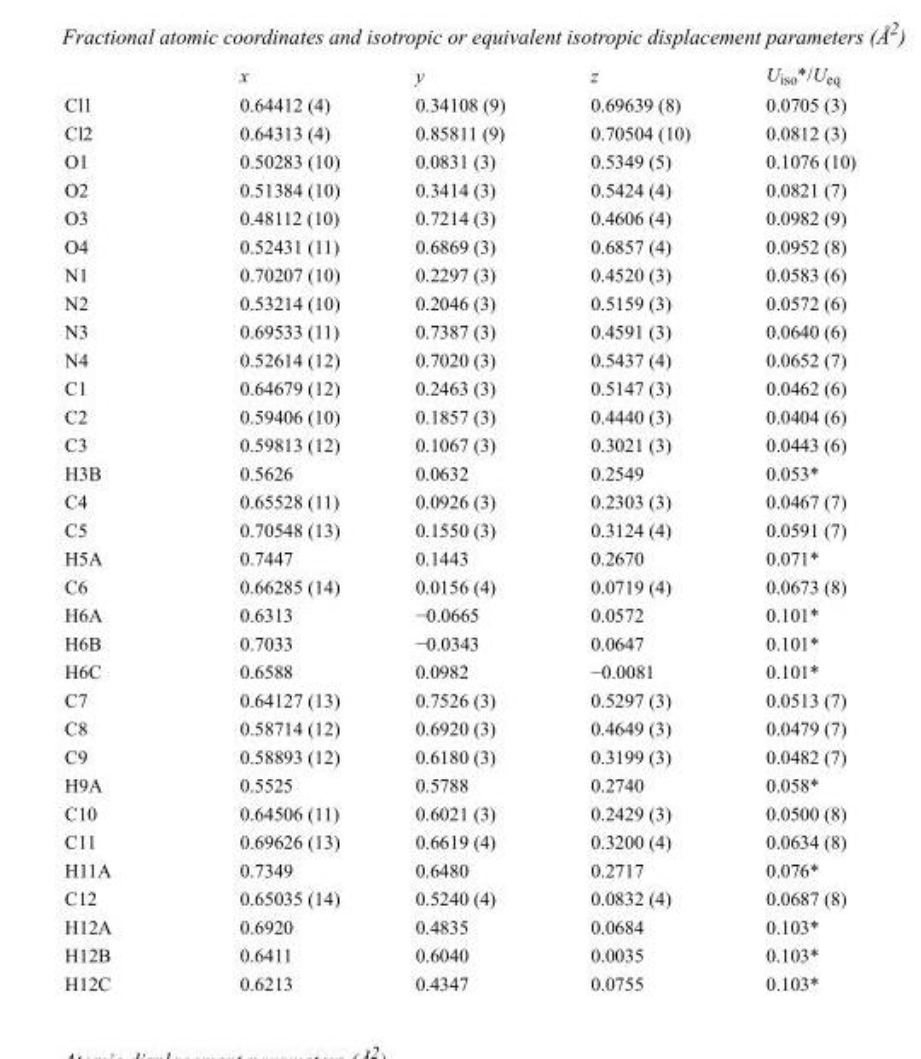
<table><thead><tr><td></td><td>x</td><td>y</td><td>z</td><td>U<sub>iso</sub>*/U<sub>eq</sub></td></tr></thead><tbody><tr><td>Cl1</td><td>0.64412 (4)</td><td>0.34108 (9)</td><td>0.69639 (8)</td><td>0.0705 (3)</td></tr><tr><td>Cl2</td><td>0.64313 (4)</td><td>0.85811 (9)</td><td>0.70504 (10)</td><td>0.0812 (3)</td></tr><tr><td>O1</td><td>0.50283 (10)</td><td>0.0831 (3)</td><td>0.5349 (5)</td><td>0.1076 (10)</td></tr><tr><td>O2</td><td>0.51384 (10)</td><td>0.3414 (3)</td><td>0.5424 (4)</td><td>0.0821 (7)</td></tr><tr><td>O3</td><td>0.48112 (10)</td><td>0.7214 (3)</td><td>0.4606 (4)</td><td>0.0982 (9)</td></tr><tr><td>O4</td><td>0.52431 (11)</td><td>0.6869 (3)</td><td>0.6857 (4)</td><td>0.0952 (8)</td></tr><tr><td>N1</td><td>0.70207 (10)</td><td>0.2297 (3)</td><td>0.4520 (3)</td><td>0.0583 (6)</td></tr><tr><td>N2</td><td>0.53214 (10)</td><td>0.2046 (3)</td><td>0.5159 (3)</td><td>0.0572 (6)</td></tr><tr><td>N3</td><td>0.69533 (11)</td><td>0.7387 (3)</td><td>0.4591 (3)</td><td>0.0640 (6)</td></tr><tr><td>N4</td><td>0.52614 (12)</td><td>0.7020 (3)</td><td>0.5437 (4)</td><td>0.0652 (7)</td></tr><tr><td>C1</td><td>0.64679 (12)</td><td>0.2463 (3)</td><td>0.5147 (3)</td><td>0.0462 (6)</td></tr><tr><td>C2</td><td>0.59406 (10)</td><td>0.1857 (3)</td><td>0.4440 (3)</td><td>0.0404 (6)</td></tr><tr><td>C3</td><td>0.59813 (12)</td><td>0.1067 (3)</td><td>0.3021 (3)</td><td>0.0443 (6)</td></tr><tr><td>H3B</td><td>0.5626</td><td>0.0632</td><td>0.2549</td><td>0.053*</td></tr><tr><td>C4</td><td>0.65528 (11)</td><td>0.0926 (3)</td><td>0.2303 (3)</td><td>0.0467 (7)</td></tr><tr><td>C5</td><td>0.70548 (13)</td><td>0.1550 (3)</td><td>0.3124 (4)</td><td>0.0591 (7)</td></tr><tr><td>H5A</td><td>0.7447</td><td>0.1443</td><td>0.2670</td><td>0.071*</td></tr><tr><td>C6</td><td>0.66285 (14)</td><td>0.0156 (4)</td><td>0.0719 (4)</td><td>0.0673 (8)</td></tr><tr><td>H6A</td><td>0.6313</td><td>−0.0665</td><td>0.0572</td><td>0.101*</td></tr><tr><td>H6B</td><td>0.7033</td><td>−0.0343</td><td>0.0647</td><td>0.101*</td></tr><tr><td>H6C</td><td>0.6588</td><td>0.0982</td><td>−0.0081</td><td>0.101*</td></tr><tr><td>C7</td><td>0.64127 (13)</td><td>0.7526 (3)</td><td>0.5297 (3)</td><td>0.0513 (7)</td></tr><tr><td>C8</td><td>0.58714 (12)</td><td>0.6920 (3)</td><td>0.4649 (3)</td><td>0.0479 (7)</td></tr><tr><td>C9</td><td>0.58893 (12)</td><td>0.6180 (3)</td><td>0.3199 (3)</td><td>0.0482 (7)</td></tr><tr><td>H9A</td><td>0.5525</td><td>0.5788</td><td>0.2740</td><td>0.058*</td></tr><tr><td>C10</td><td>0.64506 (11)</td><td>0.6021 (3)</td><td>0.2429 (3)</td><td>0.0500 (8)</td></tr><tr><td>C11</td><td>0.69626 (13)</td><td>0.6619 (4)</td><td>0.3200 (4)</td><td>0.0634 (8)</td></tr><tr><td>H11A</td><td>0.7349</td><td>0.6480</td><td>0.2717</td><td>0.076*</td></tr><tr><td>C12</td><td>0.65035 (14)</td><td>0.5240 (4)</td><td>0.0832 (4)</td><td>0.0687 (8)</td></tr><tr><td>H12A</td><td>0.6920</td><td>0.4835</td><td>0.0684</td><td>0.103*</td></tr><tr><td>H12B</td><td>0.6411</td><td>0.6040</td><td>0.0035</td><td>0.103*</td></tr><tr><td>H12C</td><td>0.6213</td><td>0.4347</td><td>0.0755</td><td>0.103*</td></tr></tbody></table>